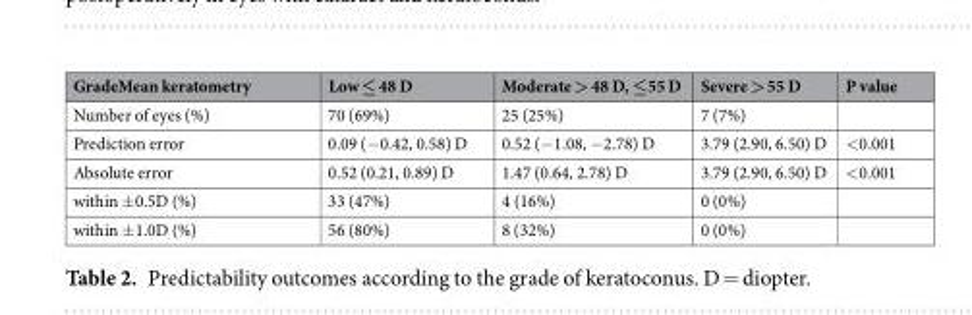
<table><thead><tr><td>GradeMean keratometry</td><td>Low ≤ 48 D</td><td>Moderate &gt; 48 D, ≤55 D</td><td>Severe &gt; 55 D</td><td>P value</td></tr></thead><tbody><tr><td>Number of eyes (%)</td><td>70 (69%)</td><td>25 (25%)</td><td>7 (7%)</td><td></td></tr><tr><td>Prediction error</td><td>0.09 (−0.42, 0.58) D</td><td>0.52 (−1.08, −2.78) D</td><td>3.79 (2.90, 6.50) D</td><td>&lt;0.001</td></tr><tr><td>Absolute error</td><td>0.52 (0.21, 0.89) D</td><td>1.47 (0.64, 2.78) D</td><td>3.79 (2.90, 6.50) D</td><td>&lt;0.001</td></tr><tr><td>within ±0.5D (%)</td><td>33 (47%)</td><td>4 (16%)</td><td>0 (0%)</td><td></td></tr><tr><td>within ±1.0D (%)</td><td>56 (80%)</td><td>8 (32%)</td><td>0 (0%)</td><td></td></tr></tbody></table>